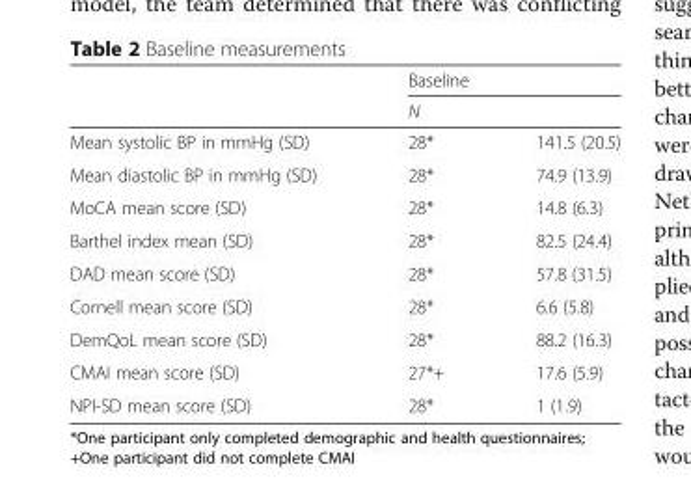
<table><thead><tr><td rowspan="2"></td><td colspan="2">Baseline</td></tr><tr><td>N</td><td></td></tr></thead><tbody><tr><td>Mean systolic BP in mmHg (SD)</td><td>28*</td><td>141.5 (20.5)</td></tr><tr><td>Mean diastolic BP in mmHg (SD)</td><td>28*</td><td>74.9 (13.9)</td></tr><tr><td>MoCA mean score (SD)</td><td>28*</td><td>14.8 (6.3)</td></tr><tr><td>Barthel index mean (SD)</td><td>28*</td><td>82.5 (24.4)</td></tr><tr><td>DAD mean score (SD)</td><td>28*</td><td>57.8 (31.5)</td></tr><tr><td>Cornell mean score (SD)</td><td>28*</td><td>6.6 (5.8)</td></tr><tr><td>DemQoL mean score (SD)</td><td>28*</td><td>88.2 (16.3)</td></tr><tr><td>CMAI mean score (SD)</td><td>27*+</td><td>17.6 (5.9)</td></tr><tr><td>NPI-SD mean score (SD)</td><td>28*</td><td>1 (1.9)</td></tr></tbody></table>